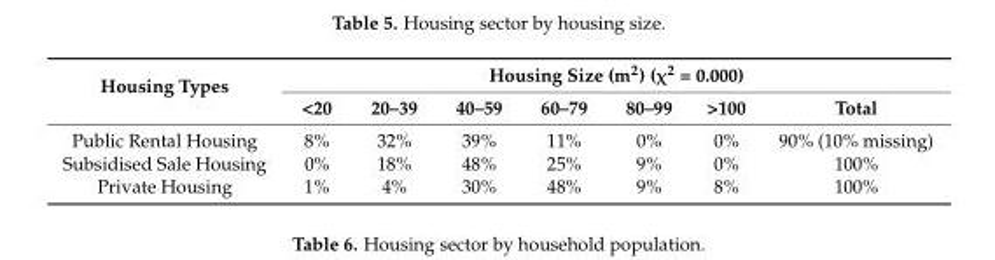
<table><thead><tr><td rowspan="2">Housing Types</td><td colspan="7">Housing Size (m<sup>2</sup>) (χ<sup>2</sup> = 0.000)</td></tr><tr><td>&lt;20</td><td>20–39</td><td>40–59</td><td>60–79</td><td>80–99</td><td>&gt;100</td><td>Total</td></tr></thead><tbody><tr><td>Public Rental Housing</td><td>8%</td><td>32%</td><td>39%</td><td>11%</td><td>0%</td><td>0%</td><td>90% (10% missing)</td></tr><tr><td>Subsidised Sale Housing</td><td>0%</td><td>18%</td><td>48%</td><td>25%</td><td>9%</td><td>0%</td><td>100%</td></tr><tr><td>Private Housing</td><td>1%</td><td>4%</td><td>30%</td><td>48%</td><td>9%</td><td>8%</td><td>100%</td></tr></tbody></table>